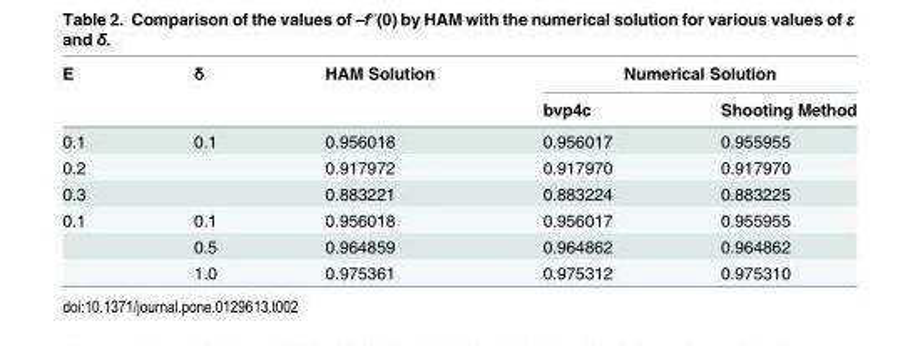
<table><thead><tr><td rowspan="2">E</td><td rowspan="2">δ</td><td rowspan="2">HAM Solution</td><td colspan="2">Numerical Solution</td></tr><tr><td>bvp4c</td><td>Shooting Method</td></tr></thead><tbody><tr><td>0.1</td><td>0.1</td><td>0.956018</td><td>0.956017</td><td>0.955955</td></tr><tr><td>0.2</td><td></td><td>0.917972</td><td>0.917970</td><td>0.917970</td></tr><tr><td>0.3</td><td></td><td>0.883221</td><td>0.883224</td><td>0.883225</td></tr><tr><td rowspan="3">0.1</td><td>0.1</td><td>0.956018</td><td>0.956017</td><td>0.955955</td></tr><tr><td>0.5</td><td>0.964859</td><td>0.964862</td><td>0.964862</td></tr><tr><td>1.0</td><td>0.975361</td><td>0.975312</td><td>0.975310</td></tr></tbody></table>